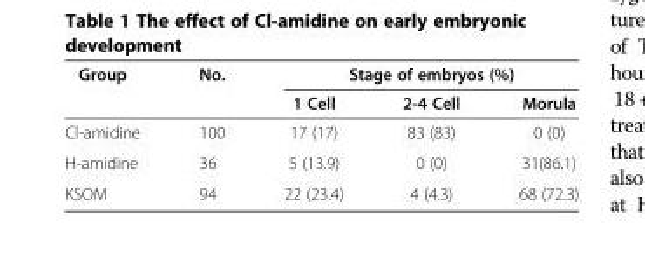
<table><thead><tr><td rowspan="2">Group</td><td rowspan="2">No.</td><td colspan="3">Stage of embryos (%)</td></tr><tr><td>1 Cell</td><td>2-4 Cell</td><td>Morula</td></tr></thead><tbody><tr><td>Cl-amidine</td><td>100</td><td>17 (17)</td><td>83 (83)</td><td>0 (0)</td></tr><tr><td>H-amidine</td><td>36</td><td>5 (13.9)</td><td>0 (0)</td><td>31(86.1)</td></tr><tr><td>KSOM</td><td>94</td><td>22 (23.4)</td><td>4 (4.3)</td><td>68 (72.3)</td></tr></tbody></table>